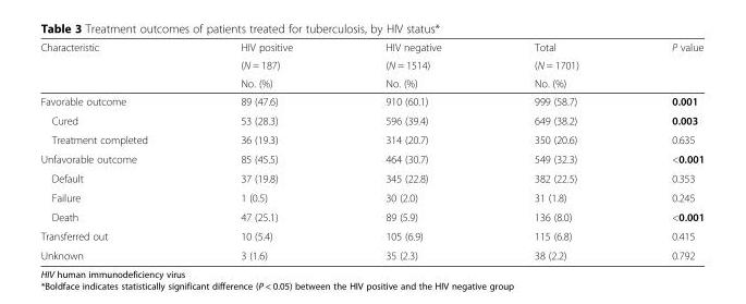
<table><thead><tr><td rowspan="3">Characteristic</td><td rowspan="3">HIV positive (N = 187) No. (%)</td><td rowspan="3">HIV negative (N = 1514) No. (%)</td><td rowspan="3">Total (N = 1701) No. (%)</td><td rowspan="3">P value</td></tr><tr></tr><tr></tr></thead><tbody><tr><td>Favorable outcome</td><td>89 (47.6)</td><td>910 (60.1)</td><td>999 (58.7)</td><td>0.001</td></tr><tr><td>Cured</td><td>53 (28.3)</td><td>596 (39.4)</td><td>649 (38.2)</td><td>0.003</td></tr><tr><td>Treatment completed</td><td>36 (19.3)</td><td>314 (20.7)</td><td>350 (20.6)</td><td>0.635</td></tr><tr><td>Unfavorable outcome</td><td>85 (45.5)</td><td>464 (30.7)</td><td>549 (32.3)</td><td>&lt;0.001</td></tr><tr><td>Default</td><td>37 (19.8)</td><td>345 (22.8)</td><td>382 (22.5)</td><td>0.353</td></tr><tr><td>Failure</td><td>1 (0.5)</td><td>30 (2.0)</td><td>31 (1.8)</td><td>0.245</td></tr><tr><td>Death</td><td>47 (25.1)</td><td>89 (5.9)</td><td>136 (8.0)</td><td>&lt;0.001</td></tr><tr><td>Transferred out</td><td>10 (5.4)</td><td>105 (6.9)</td><td>115 (6.8)</td><td>0.415</td></tr><tr><td>Unknown</td><td>3 (1.6)</td><td>35 (2.3)</td><td>38 (2.2)</td><td>0.792</td></tr></tbody></table>